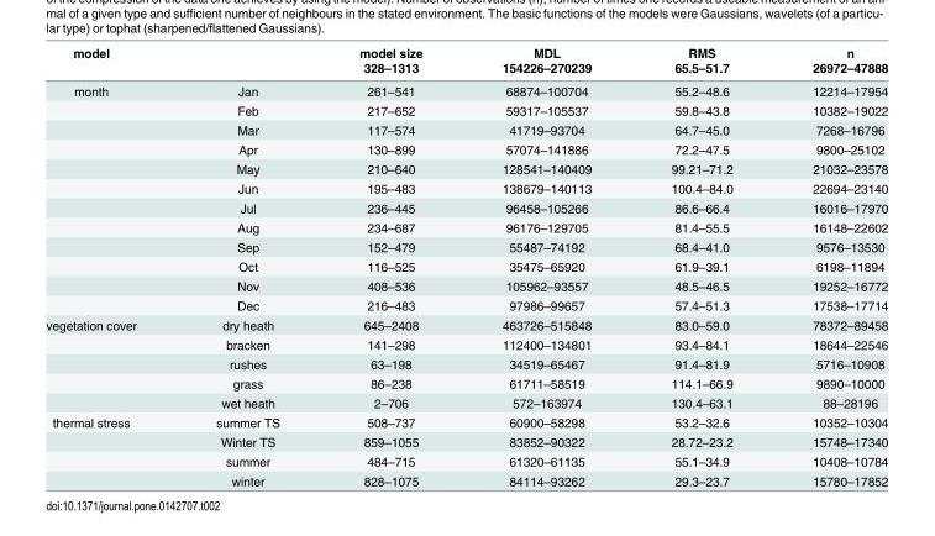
<table><thead><tr><td rowspan="2">model</td><td rowspan="2"></td><td rowspan="2">model size 328–1313</td><td rowspan="2">MDL 154226–270239</td><td rowspan="2">RMS 65.5–51.7</td><td rowspan="2">n 26972–47888</td></tr><tr></tr></thead><tbody><tr><td rowspan="12">month</td><td>Jan</td><td>261–541</td><td>68874–100704</td><td>55.2–48.6</td><td>12214–17954</td></tr><tr><td>Feb</td><td>217–652</td><td>59317–105537</td><td>59.8–43.8</td><td>10382–19022</td></tr><tr><td>Mar</td><td>117–574</td><td>41719–93704</td><td>64.7–45.0</td><td>7268–16796</td></tr><tr><td>Apr</td><td>130–899</td><td>57074–141886</td><td>72.2–47.5</td><td>9800–25102</td></tr><tr><td>May</td><td>210–640</td><td>128541–140409</td><td>99.21–71.2</td><td>21032–23578</td></tr><tr><td>Jun</td><td>195–483</td><td>138679–140113</td><td>100.4–84.0</td><td>22694–23140</td></tr><tr><td>Jul</td><td>236–445</td><td>96458–105266</td><td>86.6–66.4</td><td>16016–17970</td></tr><tr><td>Aug</td><td>234–687</td><td>96176–129705</td><td>81.4–55.5</td><td>16148–22602</td></tr><tr><td>Sep</td><td>152–479</td><td>55487–74192</td><td>68.4–41.0</td><td>9576–13530</td></tr><tr><td>Oct</td><td>116–525</td><td>35475–65920</td><td>61.9–39.1</td><td>6198–11894</td></tr><tr><td>Nov</td><td>408–536</td><td>105962–93557</td><td>48.5–46.5</td><td>19252–16772</td></tr><tr><td>Dec</td><td>216–483</td><td>97986–99657</td><td>57.4–51.3</td><td>17538–17714</td></tr><tr><td rowspan="5">vegetation cover</td><td>dry heath</td><td>645–2408</td><td>463726–515848</td><td>83.0–59.0</td><td>78372–89458</td></tr><tr><td>bracken</td><td>141–298</td><td>112400–134801</td><td>93.4–84.1</td><td>18644–22546</td></tr><tr><td>rushes</td><td>63–198</td><td>34519–65467</td><td>91.4–81.9</td><td>5716–10908</td></tr><tr><td>grass</td><td>86–238</td><td>61711–58519</td><td>114.1–66.9</td><td>9890–10000</td></tr><tr><td>wet heath</td><td>2–706</td><td>572–163974</td><td>130.4–63.1</td><td>88–28196</td></tr><tr><td rowspan="4">thermal stress</td><td>summer TS</td><td>508–737</td><td>60900–58298</td><td>53.2–32.6</td><td>10352–10304</td></tr><tr><td>Winter TS</td><td>859–1055</td><td>83852–90322</td><td>28.72–23.2</td><td>15748–17340</td></tr><tr><td>summer</td><td>484–715</td><td>61320–61135</td><td>55.1–34.9</td><td>10408–10784</td></tr><tr><td>winter</td><td>828–1075</td><td>84114–93262</td><td>29.3–23.7</td><td>15780–17852</td></tr></tbody></table>